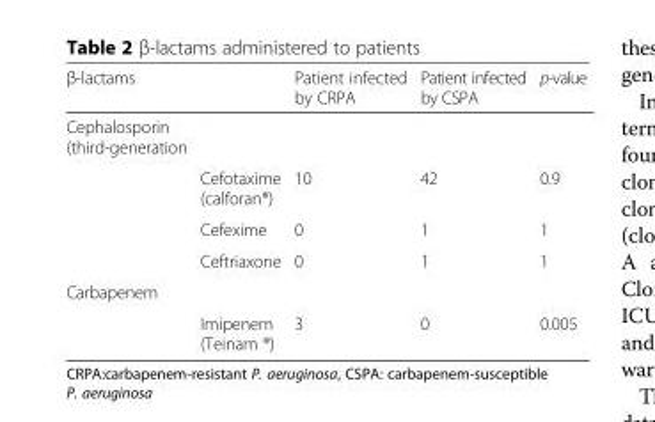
<table><thead><tr><td>β-lactams</td><td></td><td>Patient infected by CRPA</td><td>Patient infected by CSPA</td><td>p-value</td></tr></thead><tbody><tr><td colspan="5">Cephalosporin (third-generation</td></tr><tr><td></td><td>Cefotaxime (calforan®)</td><td>10</td><td>42</td><td>0.9</td></tr><tr><td></td><td>Cefexime</td><td>0</td><td>1</td><td>1</td></tr><tr><td></td><td>Ceftriaxone</td><td>0</td><td>1</td><td>1</td></tr><tr><td colspan="5">Carbapenem</td></tr><tr><td></td><td>Imipenem (Teinam ®)</td><td>3</td><td>0</td><td>0.005</td></tr></tbody></table>